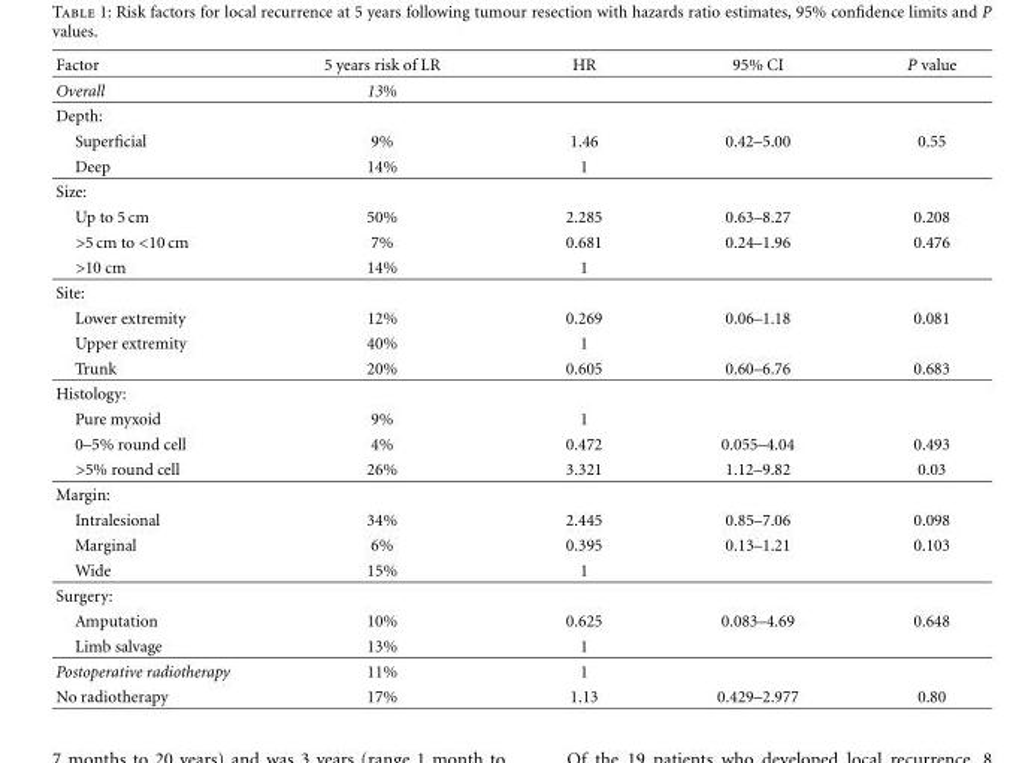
<table><thead><tr><td>Factor</td><td>5 years risk of LR</td><td>HR</td><td>95% CI</td><td>P value</td></tr></thead><tbody><tr><td>Overall</td><td>13%</td><td></td><td></td><td></td></tr><tr><td colspan="5">Depth:</td></tr><tr><td>Superficial</td><td>9%</td><td>1.46</td><td>0.42–5.00</td><td>0.55</td></tr><tr><td>Deep</td><td>14%</td><td>1</td><td></td><td></td></tr><tr><td colspan="5">Size:</td></tr><tr><td>Up to 5 cm</td><td>50%</td><td>2.285</td><td>0.63–8.27</td><td>0.208</td></tr><tr><td>&gt;5 cm to &lt;10 cm</td><td>7%</td><td>0.681</td><td>0.24–1.96</td><td>0.476</td></tr><tr><td>&gt;10 cm</td><td>14%</td><td>1</td><td></td><td></td></tr><tr><td colspan="5">Site:</td></tr><tr><td>Lower extremity</td><td>12%</td><td>0.269</td><td>0.06–1.18</td><td>0.081</td></tr><tr><td>Upper extremity</td><td>40%</td><td>1</td><td></td><td></td></tr><tr><td>Trunk</td><td>20%</td><td>0.605</td><td>0.60–6.76</td><td>0.683</td></tr><tr><td colspan="5">Histology:</td></tr><tr><td>Pure myxoid</td><td>9%</td><td>1</td><td></td><td></td></tr><tr><td>0–5% round cell</td><td>4%</td><td>0.472</td><td>0.055–4.04</td><td>0.493</td></tr><tr><td>&gt;5% round cell</td><td>26%</td><td>3.321</td><td>1.12–9.82</td><td>0.03</td></tr><tr><td colspan="5">Margin:</td></tr><tr><td>Intralesional</td><td>34%</td><td>2.445</td><td>0.85–7.06</td><td>0.098</td></tr><tr><td>Marginal</td><td>6%</td><td>0.395</td><td>0.13–1.21</td><td>0.103</td></tr><tr><td>Wide</td><td>15%</td><td>1</td><td></td><td></td></tr><tr><td colspan="5">Surgery:</td></tr><tr><td>Amputation</td><td>10%</td><td>0.625</td><td>0.083–4.69</td><td>0.648</td></tr><tr><td>Limb salvage</td><td>13%</td><td>1</td><td></td><td></td></tr><tr><td>Postoperative radiotherapy</td><td>11%</td><td>1</td><td></td><td></td></tr><tr><td>No radiotherapy</td><td>17%</td><td>1.13</td><td>0.429–2.977</td><td>0.80</td></tr></tbody></table>